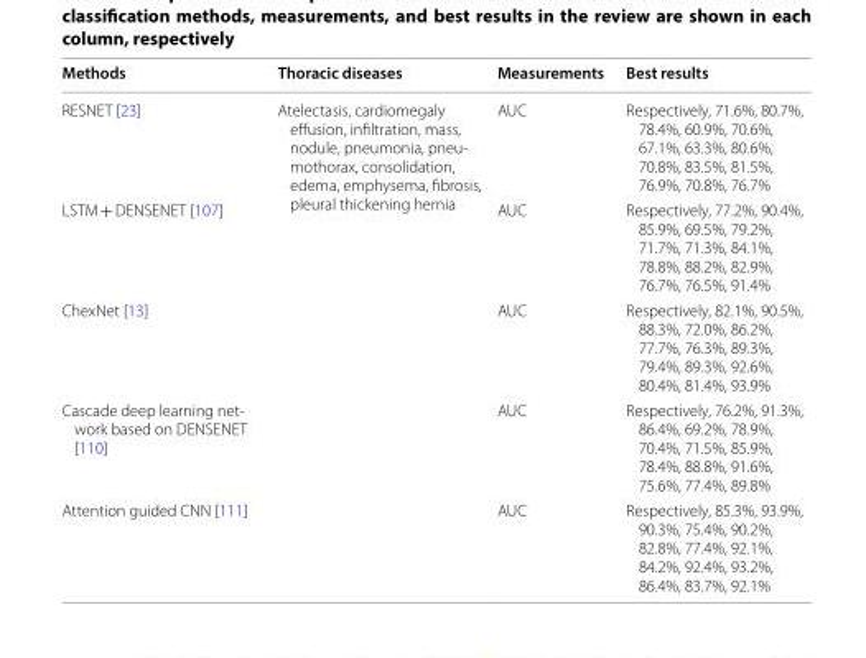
<table><thead><tr><td>Methods</td><td>Thoracic diseases</td><td>Measurements</td><td>Best results</td></tr></thead><tbody><tr><td>RESNET [23]</td><td rowspan="5">Atelectasis, cardiomegaly effusion, infiltration, mass, nodule, pneumonia, pneu- mothorax, consolidation, edema, emphysema, fibrosis, pleural thickening hernia</td><td>AUC</td><td>Respectively, 71.6%, 80.7%, 78.4%, 60.9%, 70.6%, 67.1%, 63.3%, 80.6%, 70.8%, 83.5%, 81.5%, 76.9%, 70.8%, 76.7%</td></tr><tr><td>LSTM + DENSENET [107]</td><td>AUC</td><td>Respectively, 77.2%, 90.4%, 85.9%, 69.5%, 79.2%, 71.7%, 71.3%, 84.1%, 78.8%, 88.2%, 82.9%, 76.7%, 76.5%, 91.4%</td></tr><tr><td>ChexNet [13]</td><td>AUC</td><td>Respectively, 82.1%, 90.5%, 88.3%, 72.0%, 86.2%, 77.7%, 76.3%, 89.3%, 79.4%, 89.3%, 92.6%, 80.4%, 81.4%, 93.9%</td></tr><tr><td>Cascade deep learning net- work based on DENSENET [110]</td><td>AUC</td><td>Respectively, 76.2%, 91.3%, 86.4%, 69.2%, 78.9%, 70.4%, 71.5%, 85.9%, 78.4%, 88.8%, 91.6%, 75.6%, 77.4%, 89.8%</td></tr><tr><td>Attention guided CNN [111]</td><td>AUC</td><td>Respectively, 85.3%, 93.9%, 90.3%, 75.4%, 90.2%, 82.8%, 77.4%, 92.1%, 84.2%, 92.4%, 93.2%, 86.4%, 83.7%, 92.1%</td></tr></tbody></table>